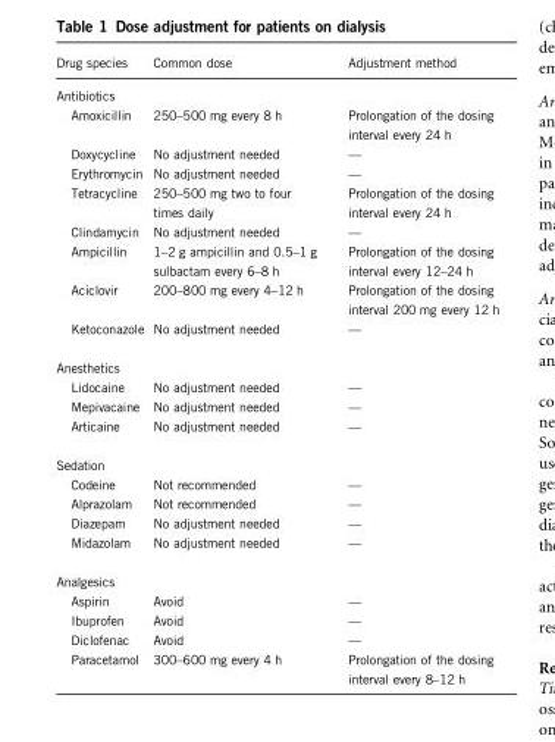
<table><thead><tr><td>Drug species</td><td>Common dose</td><td>Adjustment method</td></tr></thead><tbody><tr><td colspan="3">Antibiotics</td></tr><tr><td>Amoxicillin</td><td>250–500 mg every 8 h</td><td>Prolongation of the dosing interval every 24 h</td></tr><tr><td>Doxycycline</td><td>No adjustment needed</td><td>—</td></tr><tr><td>Erythromycin</td><td>No adjustment needed</td><td>—</td></tr><tr><td>Tetracycline</td><td>250–500 mg two to four times daily</td><td>Prolongation of the dosing interval every 24 h</td></tr><tr><td>Clindamycin</td><td>No adjustment needed</td><td>—</td></tr><tr><td>Ampicillin</td><td>1–2 g ampicillin and 0.5–1 g sulbactam every 6–8 h</td><td>Prolongation of the dosing interval every 12–24 h</td></tr><tr><td>Aciclovir</td><td>200–800 mg every 4–12 h</td><td>Prolongation of the dosing interval 200 mg every 12 h</td></tr><tr><td>Ketoconazole</td><td>No adjustment needed</td><td>—</td></tr><tr><td colspan="3">Anesthetics</td></tr><tr><td>Lidocaine</td><td>No adjustment needed</td><td>—</td></tr><tr><td>Mepivacaine</td><td>No adjustment needed</td><td>—</td></tr><tr><td>Articaine</td><td>No adjustment needed</td><td>—</td></tr><tr><td colspan="3">Sedation</td></tr><tr><td>Codeine</td><td>Not recommended</td><td>—</td></tr><tr><td>Alprazolam</td><td>Not recommended</td><td>—</td></tr><tr><td>Diazepam</td><td>No adjustment needed</td><td>—</td></tr><tr><td>Midazolam</td><td>No adjustment needed</td><td>—</td></tr><tr><td colspan="3">Analgesics</td></tr><tr><td>Aspirin</td><td>Avoid</td><td>—</td></tr><tr><td>Ibuprofen</td><td>Avoid</td><td>—</td></tr><tr><td>Diclofenac</td><td>Avoid</td><td>—</td></tr><tr><td>Paracetamol</td><td>300–600 mg every 4 h</td><td>Prolongation of the dosing interval every 8–12 h</td></tr></tbody></table>